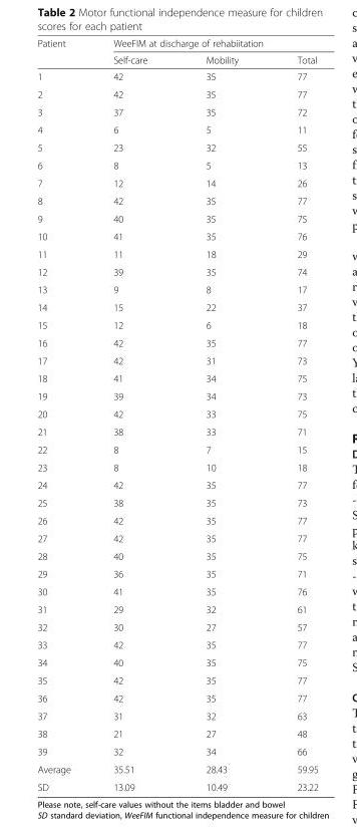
<table><thead><tr><td rowspan="2">Patient</td><td colspan="3">WeeFIM at discharge of rehabiitation</td></tr><tr><td>Self-care</td><td>Mobility</td><td>Total</td></tr></thead><tbody><tr><td>1</td><td>42</td><td>35</td><td>77</td></tr><tr><td>2</td><td>42</td><td>35</td><td>77</td></tr><tr><td>3</td><td>37</td><td>35</td><td>72</td></tr><tr><td>4</td><td>6</td><td>5</td><td>11</td></tr><tr><td>5</td><td>23</td><td>32</td><td>55</td></tr><tr><td>6</td><td>8</td><td>5</td><td>13</td></tr><tr><td>7</td><td>12</td><td>14</td><td>26</td></tr><tr><td>8</td><td>42</td><td>35</td><td>77</td></tr><tr><td>9</td><td>40</td><td>35</td><td>75</td></tr><tr><td>10</td><td>41</td><td>35</td><td>76</td></tr><tr><td>11</td><td>11</td><td>18</td><td>29</td></tr><tr><td>12</td><td>39</td><td>35</td><td>74</td></tr><tr><td>13</td><td>9</td><td>8</td><td>17</td></tr><tr><td>14</td><td>15</td><td>22</td><td>37</td></tr><tr><td>15</td><td>12</td><td>6</td><td>18</td></tr><tr><td>16</td><td>42</td><td>35</td><td>77</td></tr><tr><td>17</td><td>42</td><td>31</td><td>73</td></tr><tr><td>18</td><td>41</td><td>34</td><td>75</td></tr><tr><td>19</td><td>39</td><td>34</td><td>73</td></tr><tr><td>20</td><td>42</td><td>33</td><td>75</td></tr><tr><td>21</td><td>38</td><td>33</td><td>71</td></tr><tr><td>22</td><td>8</td><td>7</td><td>15</td></tr><tr><td>23</td><td>8</td><td>10</td><td>18</td></tr><tr><td>24</td><td>42</td><td>35</td><td>77</td></tr><tr><td>25</td><td>38</td><td>35</td><td>73</td></tr><tr><td>26</td><td>42</td><td>35</td><td>77</td></tr><tr><td>27</td><td>42</td><td>35</td><td>77</td></tr><tr><td>28</td><td>40</td><td>35</td><td>75</td></tr><tr><td>29</td><td>36</td><td>35</td><td>71</td></tr><tr><td>30</td><td>41</td><td>35</td><td>76</td></tr><tr><td>31</td><td>29</td><td>32</td><td>61</td></tr><tr><td>32</td><td>30</td><td>27</td><td>57</td></tr><tr><td>33</td><td>42</td><td>35</td><td>77</td></tr><tr><td>34</td><td>40</td><td>35</td><td>75</td></tr><tr><td>35</td><td>42</td><td>35</td><td>77</td></tr><tr><td>36</td><td>42</td><td>35</td><td>77</td></tr><tr><td>37</td><td>31</td><td>32</td><td>63</td></tr><tr><td>38</td><td>21</td><td>27</td><td>48</td></tr><tr><td>39</td><td>32</td><td>34</td><td>66</td></tr><tr><td>Average</td><td>35.51</td><td>28.43</td><td>59.95</td></tr><tr><td>SD</td><td>13.09</td><td>10.49</td><td>23.22</td></tr></tbody></table>